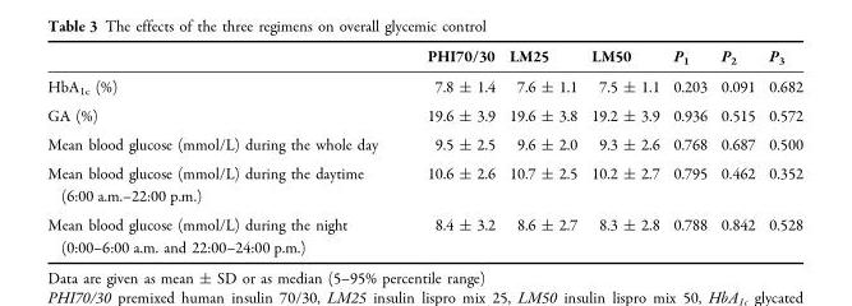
<table><thead><tr><td></td><td>PHI70/30</td><td>LM25</td><td>LM50</td><td>P<sub>1</sub></td><td>P<sub>2</sub></td><td>P<sub>3</sub></td></tr></thead><tbody><tr><td>HbA<sub>1c</sub> (%)</td><td>7.8 ± 1.4</td><td>7.6 ± 1.1</td><td>7.5 ± 1.1</td><td>0.203</td><td>0.091</td><td>0.682</td></tr><tr><td>GA (%)</td><td>19.6 ± 3.9</td><td>19.6 ± 3.8</td><td>19.2 ± 3.9</td><td>0.936</td><td>0.515</td><td>0.572</td></tr><tr><td>Mean blood glucose (mmol/L) during the whole day</td><td>9.5 ± 2.5</td><td>9.6 ± 2.0</td><td>9.3 ± 2.6</td><td>0.768</td><td>0.687</td><td>0.500</td></tr><tr><td>Mean blood glucose (mmol/L) during the daytime (6:00 a.m.–22:00 p.m.)</td><td>10.6 ± 2.6</td><td>10.7 ± 2.5</td><td>10.2 ± 2.7</td><td>0.795</td><td>0.462</td><td>0.352</td></tr><tr><td>Mean blood glucose (mmol/L) during the night (0:00–6:00 a.m. and 22:00–24:00 p.m.)</td><td>8.4 ± 3.2</td><td>8.6 ± 2.7</td><td>8.3 ± 2.8</td><td>0.788</td><td>0.842</td><td>0.528</td></tr></tbody></table>